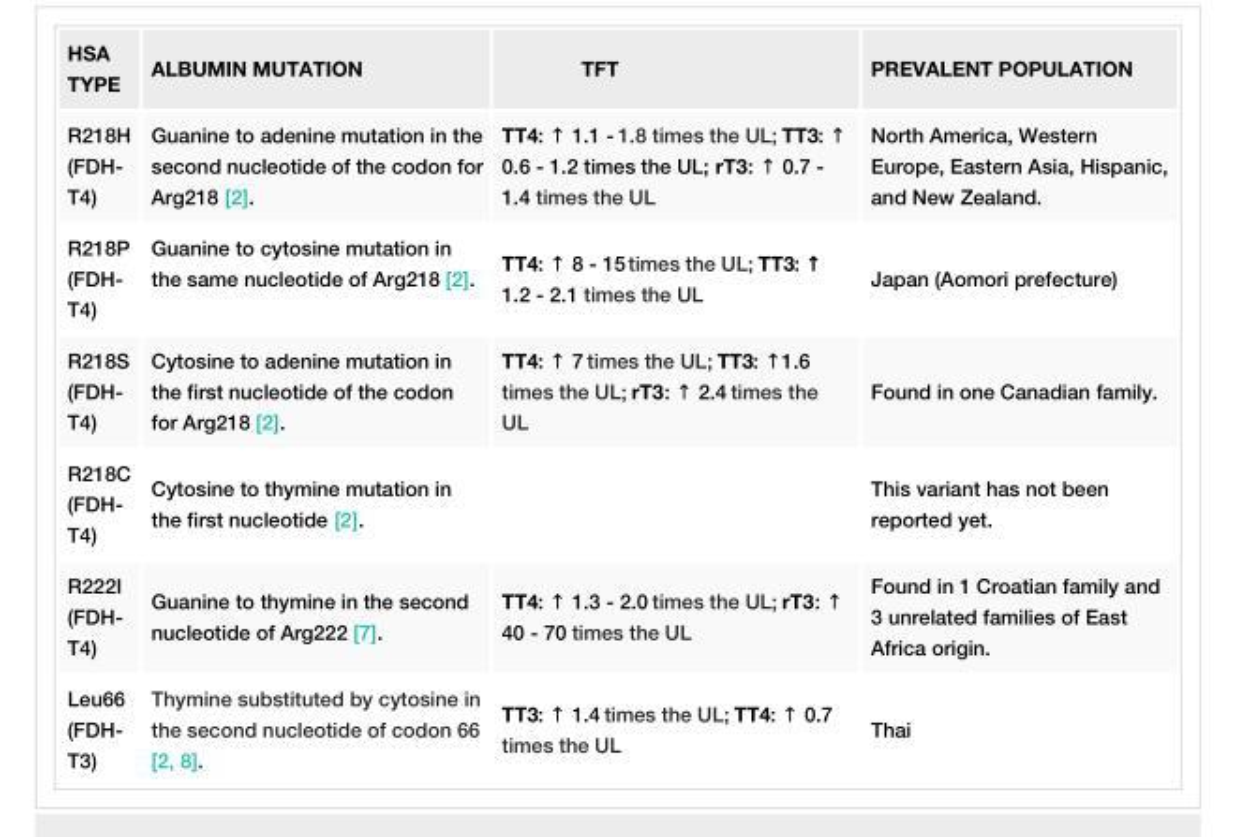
<table><tbody><tr><td>TYPE</td><td>ALBUMIN MUTATION</td><td>TFT</td><td>PREVALENT POPULATION</td></tr><tr><td>R218H (FDH- T4)</td><td>Guanine to adenine mutation in the second nucleotide of the codon for Arg218 [2].</td><td>TT4: ↑ 1.1 - 1.8 times the UL; TT3: ↑ 0.6 - 1.2 times the UL; rT3: ↑ 0.7 - 1.4 times the UL</td><td>North America, Western Europe, Eastern Asia, Hispanic, and New Zealand.</td></tr><tr><td>R218P (FDH- T4)</td><td>Guanine to cytosine mutation in the same nucleotide of Arg218 [2].</td><td>TT4: ↑ 8 - 15 times the UL; TT3: ↑ 1.2 - 2.1 times the UL</td><td>Japan (Aomori prefecture)</td></tr><tr><td>R218S (FDH- T4)</td><td>Cytosine to adenine mutation in the first nucleotide of the codon for Arg218 [2].</td><td>TT4: ↑ 7 times the UL; TT3: ↑1.6 times the UL; rT3: ↑ 2.4 times the UL</td><td>Found in one Canadian family.</td></tr><tr><td>R218C (FDH- T4)</td><td>Cytosine to thymine mutation in the first nucleotide [2].</td><td></td><td>This variant has not been reported yet.</td></tr><tr><td>R222I (FDH- T4)</td><td>Guanine to thymine in the second nucleotide of Arg222 [7].</td><td>TT4: ↑ 1.3 - 2.0 times the UL; rT3: ↑ 40 - 70 times the UL</td><td>Found in 1 Croatian family and 3 unrelated families of East Africa origin.</td></tr><tr><td>Leu66 (FDH- T3)</td><td>Thymine substituted by cytosine in the second nucleotide of codon 66 [2, 8].</td><td>TT3: ↑ 1.4 times the UL; TT4: ↑ 0.7 times the UL</td><td>Thai</td></tr></tbody></table>